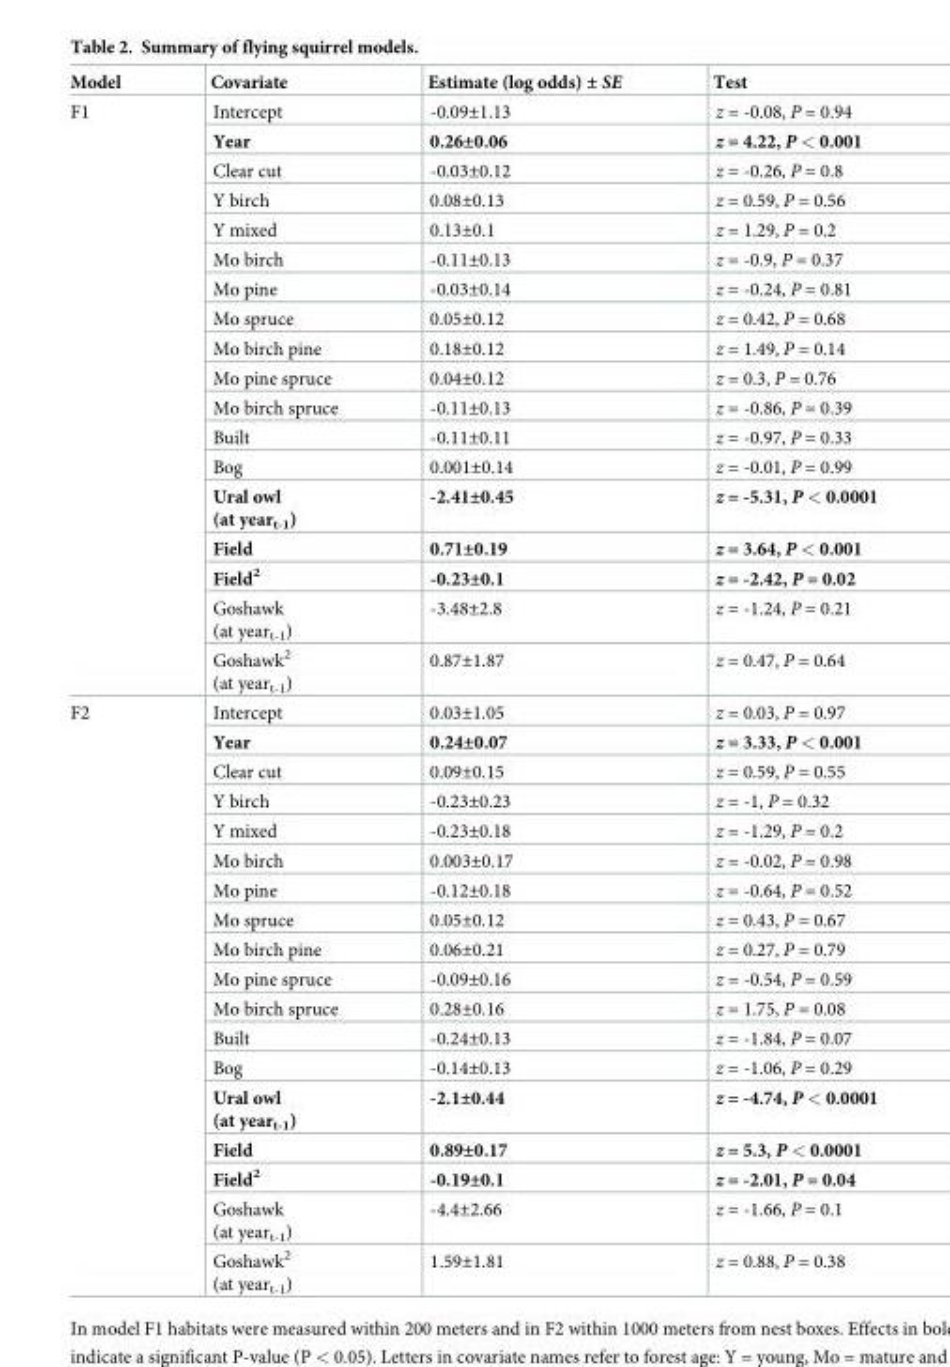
<table><thead><tr><td>Model</td><td>Covariate</td><td>Estimate (log odds) ± SE</td><td>Test</td></tr></thead><tbody><tr><td rowspan="18">F1</td><td>Intercept</td><td>-0.09±1.13</td><td>z = -0.08, P = 0.94</td></tr><tr><td>Year</td><td>0.26±0.06</td><td>z = 4.22, P &lt; 0.001</td></tr><tr><td>Clear cut</td><td>-0.03±0.12</td><td>z = -0.26, P = 0.8</td></tr><tr><td>Y birch</td><td>0.08±0.13</td><td>z = 0.59, P = 0.56</td></tr><tr><td>Y mixed</td><td>0.13±0.1</td><td>z = 1.29, P = 0.2</td></tr><tr><td>Mo birch</td><td>-0.11±0.13</td><td>z = -0.9, P = 0.37</td></tr><tr><td>Mo pine</td><td>-0.03±0.14</td><td>z = -0.24, P = 0.81</td></tr><tr><td>Mo spruce</td><td>0.05±0.12</td><td>z = 0.42, P = 0.68</td></tr><tr><td>Mo birch pine</td><td>0.18±0.12</td><td>z = 1.49, P = 0.14</td></tr><tr><td>Mo pine spruce</td><td>0.04±0.12</td><td>z = 0.3, P = 0.76</td></tr><tr><td>Mo birch spruce</td><td>-0.11±0.13</td><td>z = -0.86, P = 0.39</td></tr><tr><td>Built</td><td>-0.11±0.11</td><td>z = -0.97, P = 0.33</td></tr><tr><td>Bog</td><td>0.001±0.14</td><td>z = -0.01, P = 0.99</td></tr><tr><td>Ural owl (at year<sub>t-1</sub>)</td><td>-2.41±0.45</td><td>z = -5.31, P &lt; 0.0001</td></tr><tr><td>Field</td><td>0.71±0.19</td><td>z = 3.64, P &lt; 0.001</td></tr><tr><td>Field<sup>2</sup></td><td>-0.23±0.1</td><td>z = -2.42, P = 0.02</td></tr><tr><td>Goshawk (at year<sub>t-1</sub>)</td><td>-3.48±2.8</td><td>z = -1.24, P = 0.21</td></tr><tr><td>Goshawk<sup>2</sup> (at year<sub>t-1</sub>)</td><td>0.87±1.87</td><td>z = 0.47, P = 0.64</td></tr><tr><td rowspan="18">F2</td><td>Intercept</td><td>0.03±1.05</td><td>z = 0.03, P = 0.97</td></tr><tr><td>Year</td><td>0.24±0.07</td><td>z = 3.33, P &lt; 0.001</td></tr><tr><td>Clear cut</td><td>0.09±0.15</td><td>z = 0.59, P = 0.55</td></tr><tr><td>Y birch</td><td>-0.23±0.23</td><td>z = -1, P = 0.32</td></tr><tr><td>Y mixed</td><td>-0.23±0.18</td><td>z = -1.29, P = 0.2</td></tr><tr><td>Mo birch</td><td>0.003±0.17</td><td>z = -0.02, P = 0.98</td></tr><tr><td>Mo pine</td><td>-0.12±0.18</td><td>z = -0.64, P = 0.52</td></tr><tr><td>Mo spruce</td><td>0.05±0.12</td><td>z = 0.43, P = 0.67</td></tr><tr><td>Mo birch pine</td><td>0.06±0.21</td><td>z = 0.27, P = 0.79</td></tr><tr><td>Mo pine spruce</td><td>-0.09±0.16</td><td>z = -0.54, P = 0.59</td></tr><tr><td>Mo birch spruce</td><td>0.28±0.16</td><td>z = 1.75, P = 0.08</td></tr><tr><td>Built</td><td>-0.24±0.13</td><td>z = -1.84, P = 0.07</td></tr><tr><td>Bog</td><td>-0.14±0.13</td><td>z = -1.06, P = 0.29</td></tr><tr><td>Ural owl (at year<sub>t-1</sub>)</td><td>-2.1±0.44</td><td>z = -4.74, P &lt; 0.0001</td></tr><tr><td>Field</td><td>0.89±0.17</td><td>z = 5.3, P &lt; 0.0001</td></tr><tr><td>Field<sup>2</sup></td><td>-0.19±0.1</td><td>z = -2.01, P = 0.04</td></tr><tr><td>Goshawk (at year<sub>t-1</sub>)</td><td>-4.4±2.66</td><td>z = -1.66, P = 0.1</td></tr><tr><td>Goshawk<sup>2</sup> (at year<sub>t-1</sub>)</td><td>1.59±1.81</td><td>z = 0.88, P = 0.38</td></tr></tbody></table>